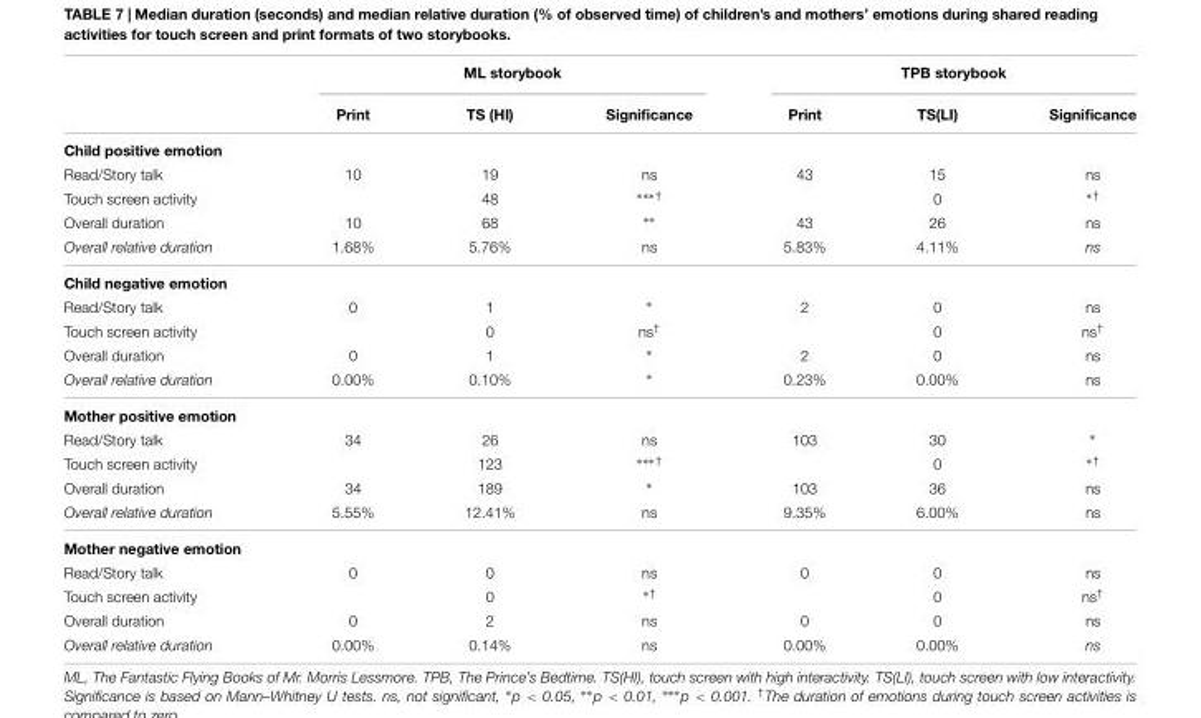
<table><thead><tr><td rowspan="2"></td><td colspan="3">ML storybook</td><td colspan="3">TPB storybook</td></tr><tr><td>Print</td><td>TS (HI)</td><td>Significance</td><td>Print</td><td>TS(LI)</td><td>Significance</td></tr></thead><tbody><tr><td colspan="7">Child positive emotion</td></tr><tr><td>Read/Story talk</td><td>10</td><td>19</td><td>ns</td><td>43</td><td>15</td><td>ns</td></tr><tr><td>Touch screen activity</td><td></td><td>48</td><td><sup>∗∗∗†</sup></td><td></td><td>0</td><td><sup>∗†</sup></td></tr><tr><td>Overall duration</td><td>10</td><td>68</td><td>∗∗</td><td>43</td><td>26</td><td>ns</td></tr><tr><td>Overall relative duration</td><td>1.68%</td><td>5.76%</td><td>ns</td><td>5.83%</td><td>4.11%</td><td>ns</td></tr><tr><td colspan="7">Child negative emotion</td></tr><tr><td>Read/Story talk</td><td>0</td><td>1</td><td>∗</td><td>2</td><td>0</td><td>ns</td></tr><tr><td>Touch screen activity</td><td></td><td>0</td><td>ns<sup>†</sup></td><td></td><td>0</td><td>ns<sup>†</sup></td></tr><tr><td>Overall duration</td><td>0</td><td>1</td><td>∗</td><td>2</td><td>0</td><td>ns</td></tr><tr><td>Overall relative duration</td><td>0.00%</td><td>0.10%</td><td>∗</td><td>0.23%</td><td>0.00%</td><td>ns</td></tr><tr><td colspan="7">Mother positive emotion</td></tr><tr><td>Read/Story talk</td><td>34</td><td>26</td><td>ns</td><td>103</td><td>30</td><td>∗</td></tr><tr><td>Touch screen activity</td><td></td><td>123</td><td><sup>∗∗∗†</sup></td><td></td><td>0</td><td><sup>∗†</sup></td></tr><tr><td>Overall duration</td><td>34</td><td>189</td><td>∗</td><td>103</td><td>36</td><td>ns</td></tr><tr><td>Overall relative duration</td><td>5.55%</td><td>12.41%</td><td>ns</td><td>9.35%</td><td>6.00%</td><td>ns</td></tr><tr><td colspan="7">Mother negative emotion</td></tr><tr><td>Read/Story talk</td><td>0</td><td>0</td><td>ns</td><td>0</td><td>0</td><td>ns</td></tr><tr><td>Touch screen activity</td><td></td><td>0</td><td><sup>∗†</sup></td><td></td><td>0</td><td>ns<sup>†</sup></td></tr><tr><td>Overall duration</td><td>0</td><td>2</td><td>ns</td><td>0</td><td>0</td><td>ns</td></tr><tr><td>Overall relative duration</td><td>0.00%</td><td>0.14%</td><td>ns</td><td>0.00%</td><td>0.00%</td><td>ns</td></tr></tbody></table>